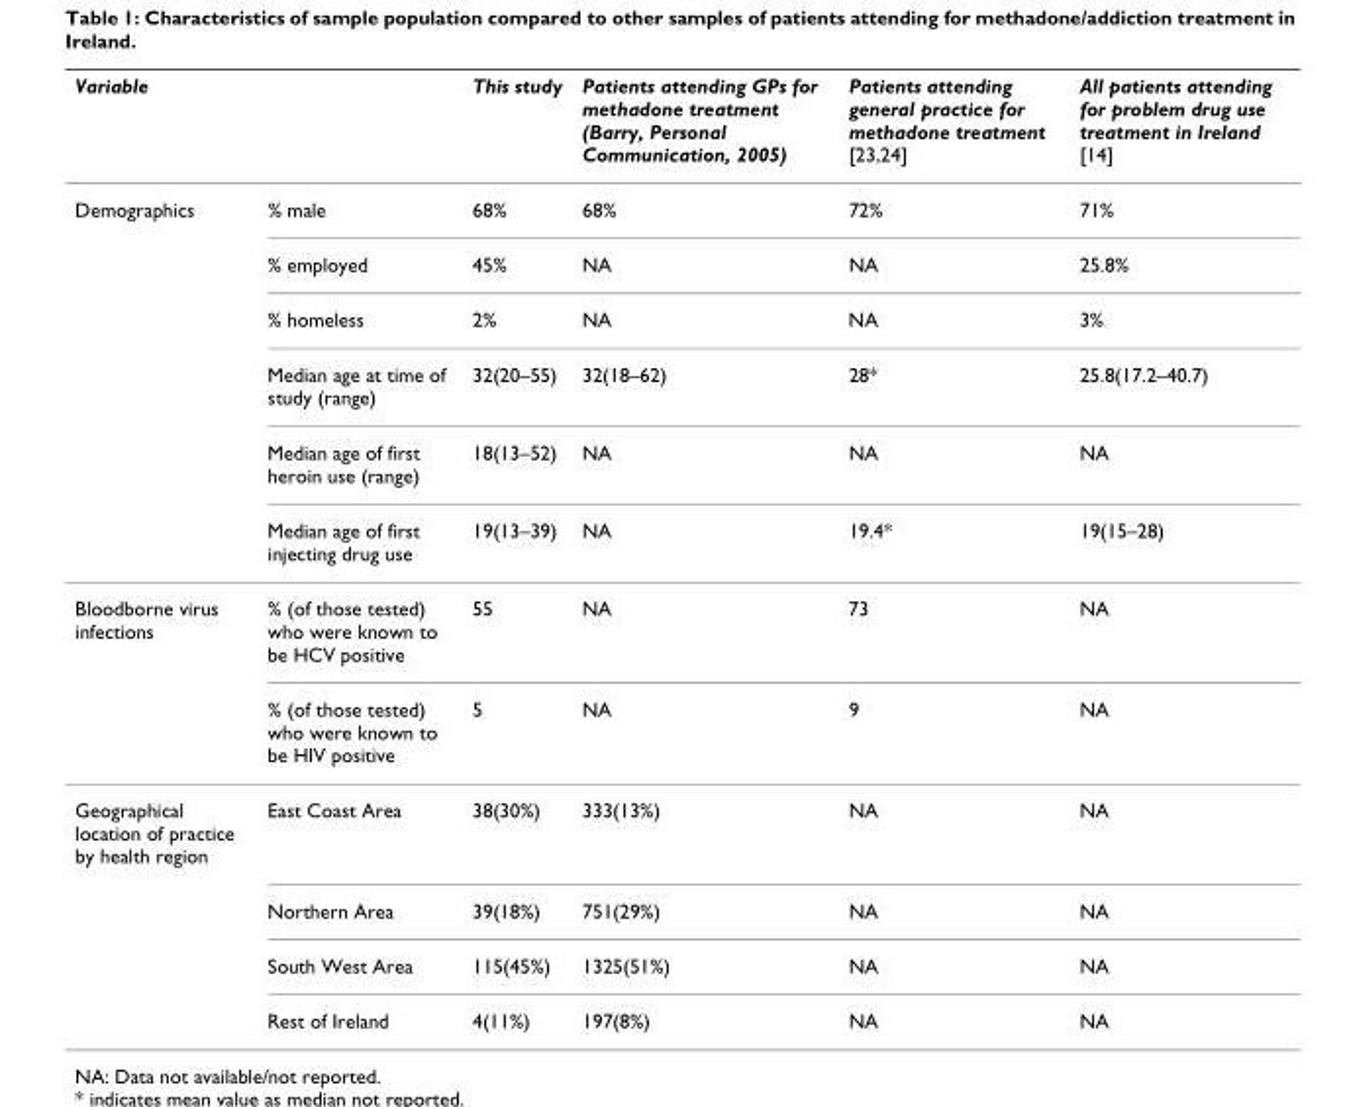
<table><thead><tr><td>Variable</td><td></td><td>This study</td><td>Patients attending GPs for methadone treatment (Barry, Personal Communication, 2005)</td><td>Patients attending general practice for methadone treatment [23,24]</td><td>All patients attending for problem drug use treatment in Ireland [14]</td></tr></thead><tbody><tr><td rowspan="6">Demographics</td><td>% male</td><td>68%</td><td>68%</td><td>72%</td><td>71%</td></tr><tr><td>% employed</td><td>45%</td><td>NA</td><td>NA</td><td>25.8%</td></tr><tr><td>% homeless</td><td>2%</td><td>NA</td><td>NA</td><td>3%</td></tr><tr><td>Median age at time of study (range)</td><td>32(20–55)</td><td>32(18–62)</td><td>28*</td><td>25.8(17.2–40.7)</td></tr><tr><td>Median age of first heroin use (range)</td><td>18(13–52)</td><td>NA</td><td>NA</td><td>NA</td></tr><tr><td>Median age of first injecting drug use</td><td>19(13–39)</td><td>NA</td><td>19.4*</td><td>19(15–28)</td></tr><tr><td rowspan="2">Bloodborne virus infections</td><td>% (of those tested) who were known to be HCV positive</td><td>55</td><td>NA</td><td>73</td><td>NA</td></tr><tr><td>% (of those tested) who were known to be HIV positive</td><td>5</td><td>NA</td><td>9</td><td>NA</td></tr><tr><td rowspan="4">Geographical location of practice by health region</td><td>East Coast Area</td><td>38(30%)</td><td>333(13%)</td><td>NA</td><td>NA</td></tr><tr><td>Northern Area</td><td>39(18%)</td><td>751(29%)</td><td>NA</td><td>NA</td></tr><tr><td>South West Area</td><td>115(45%)</td><td>1325(51%)</td><td>NA</td><td>NA</td></tr><tr><td>Rest of Ireland</td><td>4(11%)</td><td>197(8%)</td><td>NA</td><td>NA</td></tr></tbody></table>